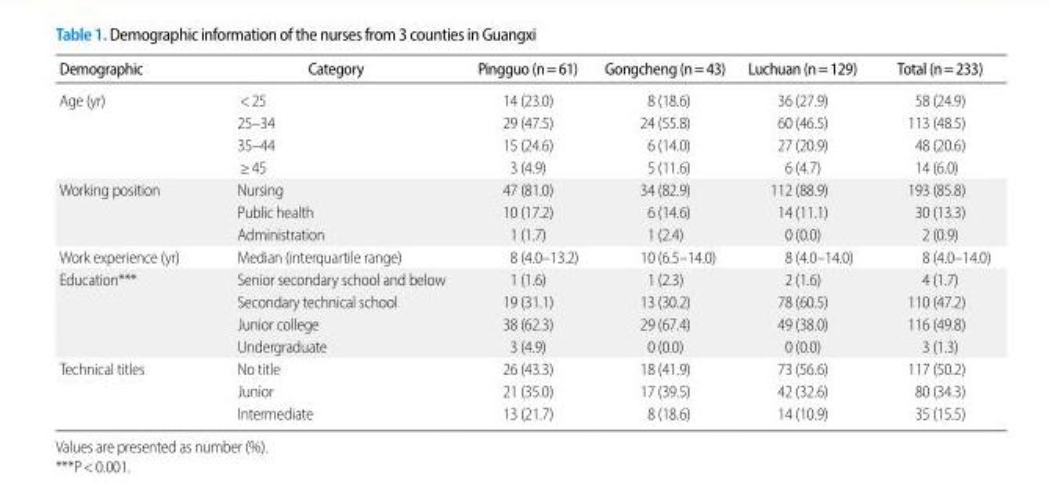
<table><thead><tr><td>Demographic</td><td>Category</td><td>Pingguo (n=61)</td><td>Gongcheng (n=43)</td><td>Luchuan (n=129)</td><td>Total (n=233)</td></tr></thead><tbody><tr><td rowspan="4">Age (yr)</td><td>&lt;25</td><td>14 (23.0)</td><td>8 (18.6)</td><td>36 (27.9)</td><td>58 (24.9)</td></tr><tr><td>25–34</td><td>29 (47.5)</td><td>24 (55.8)</td><td>60 (46.5)</td><td>113 (48.5)</td></tr><tr><td>35–44</td><td>15 (24.6)</td><td>6 (14.0)</td><td>27 (20.9)</td><td>48 (20.6)</td></tr><tr><td>≥45</td><td>3 (4.9)</td><td>5 (11.6)</td><td>6 (4.7)</td><td>14 (6.0)</td></tr><tr><td rowspan="3">Working position</td><td>Nursing</td><td>47 (81.0)</td><td>34 (82.9)</td><td>112 (88.9)</td><td>193 (85.8)</td></tr><tr><td>Public health</td><td>10 (17.2)</td><td>6 (14.6)</td><td>14 (11.1)</td><td>30 (13.3)</td></tr><tr><td>Administration</td><td>1 (1.7)</td><td>1 (2.4)</td><td>0 (0.0)</td><td>2 (0.9)</td></tr><tr><td>Work experience (yr)</td><td>Median (interquartile range)</td><td>8 (4.0–13.2)</td><td>10 (6.5–14.0)</td><td>8 (4.0–14.0)</td><td>8 (4.0–14.0)</td></tr><tr><td rowspan="4">Education***</td><td>Senior secondary school and below</td><td>1 (1.6)</td><td>1 (2.3)</td><td>2 (1.6)</td><td>4 (1.7)</td></tr><tr><td>Secondary technical school</td><td>19 (31.1)</td><td>13 (30.2)</td><td>78 (60.5)</td><td>110 (47.2)</td></tr><tr><td>Junior college</td><td>38 (62.3)</td><td>29 (67.4)</td><td>49 (38.0)</td><td>116 (49.8)</td></tr><tr><td>Undergraduate</td><td>3 (4.9)</td><td>0 (0.0)</td><td>0 (0.0)</td><td>3 (1.3)</td></tr><tr><td rowspan="3">Technical titles</td><td>No title</td><td>26 (43.3)</td><td>18 (41.9)</td><td>73 (56.6)</td><td>117 (50.2)</td></tr><tr><td>Junior</td><td>21 (35.0)</td><td>17 (39.5)</td><td>42 (32.6)</td><td>80 (34.3)</td></tr><tr><td>Intermediate</td><td>13 (21.7)</td><td>8 (18.6)</td><td>14 (10.9)</td><td>35 (15.5)</td></tr></tbody></table>